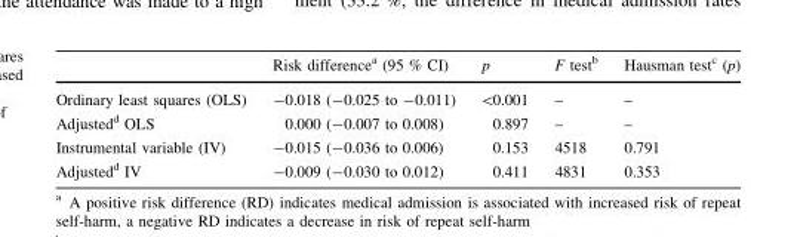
<table><thead><tr><td></td><td>Risk difference<sup>a</sup> (95 % CI)</td><td>p</td><td>F test<sup>b</sup></td><td>Hausman test<sup>c</sup> (p)</td></tr></thead><tbody><tr><td>Ordinary least squares (OLS)</td><td>-0.018 (-0.025 to -0.011)</td><td>&lt;0.001</td><td>–</td><td>–</td></tr><tr><td>Adjusted<sup>d</sup> OLS</td><td>0.000 (-0.007 to 0.008)</td><td>0.897</td><td>–</td><td>–</td></tr><tr><td>Instrumental variable (IV)</td><td>-0.015 (-0.036 to 0.006)</td><td>0.153</td><td>4518</td><td>0.791</td></tr><tr><td>Adjusted<sup>d</sup> IV</td><td>-0.009 (-0.030 to 0.012)</td><td>0.411</td><td>4831</td><td>0.353</td></tr></tbody></table>